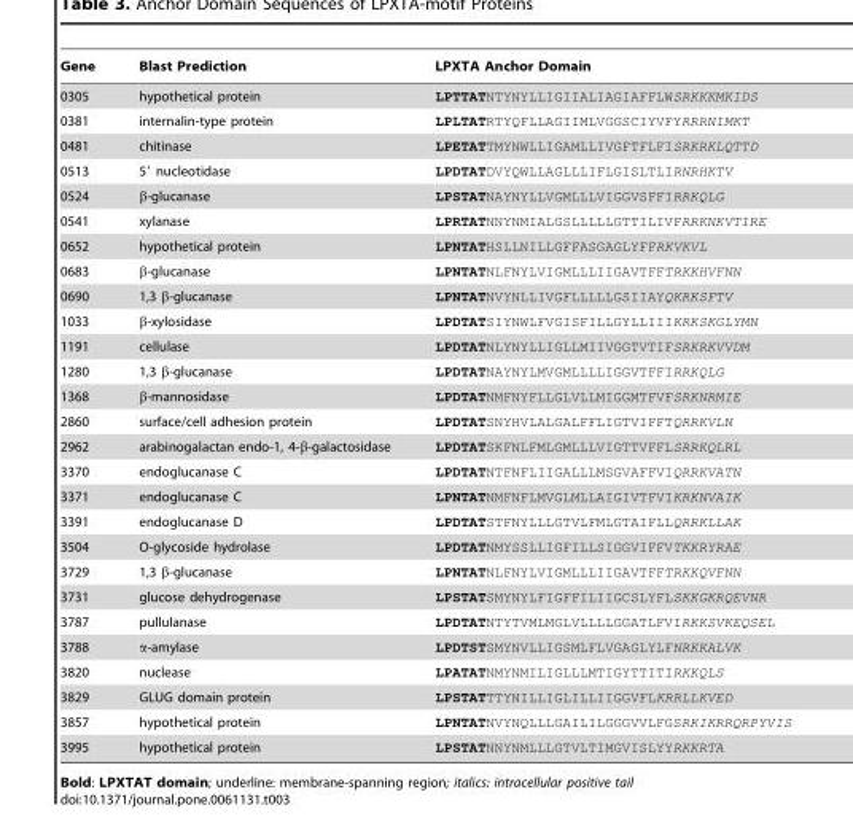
<table><thead><tr><td>Gene</td><td>Blast Prediction</td><td>LPXTA Anchor Domain</td></tr></thead><tbody><tr><td>0305</td><td>hypothetical protein</td><td>LPTTATNTYNYLLIGIIALIAGIAFFLWSRKKKMKIDS</td></tr><tr><td>0381</td><td>internalin-type protein</td><td>LPLTATRTYQFLLAGIIMLVGGSCIYVFYRRRNIMKT</td></tr><tr><td>0481</td><td>chitinase</td><td>LPETATTMYNWLLIGAMLLIVGFTFLFISRKRKLQTTD</td></tr><tr><td>0513</td><td>5′ nucleotidase</td><td>LPDTATDVYQWLLAGLLLIFLGISLTLIRNRHKTV</td></tr><tr><td>0524</td><td>β-glucanase</td><td>LPSTATNAYNYLLVGMLLLVIGGVSFFIRRKQLG</td></tr><tr><td>0541</td><td>xylanase</td><td>LPRTATNNYNMIALGSLLLLLGTTILIVFRRKNKVTIRE</td></tr><tr><td>0652</td><td>hypothetical protein</td><td>LPNTATHSLLNILLGFFASGAGLYFFRKVKVL</td></tr><tr><td>0683</td><td>β-glucanase</td><td>LPNTATNLFNYLVIGMLLLIIGAVTFFTRKKHVFNN</td></tr><tr><td>0690</td><td>1,3 β-glucanase</td><td>LPNTATNVYNLLIVGFLLLLLGSIIAYQKRKSFTV</td></tr><tr><td>1033</td><td>β-xylosidase</td><td>LPDTATSIYNWLFVGISFILLGYLLIIIKRKSKGLYMN</td></tr><tr><td>1191</td><td>cellulase</td><td>LPDTATNLYNYLLIGLLMIIVGGTVTIFSRKRKVVDM</td></tr><tr><td>1280</td><td>1,3 β-glucanase</td><td>LPDTATNAYNYLMVGMLLLLIGGVTFFIRRKQLG</td></tr><tr><td>1368</td><td>β-mannosidase</td><td>LPDTATNMFNYFLLGLVLLMIGGMTFVFSRKNRMIE</td></tr><tr><td>2860</td><td>surface/cell adhesion protein</td><td>LPDTATSNYHVLALGALFFLIGTVIFFTQRRKVLN</td></tr><tr><td>2962</td><td>arabinogalactan endo-1, 4-β-galactosidase</td><td>LPDTATSKFNLFMLGMLLLVIGTTVFFLSRRKQLRL</td></tr><tr><td>3370</td><td>endoglucanase C</td><td>LPDTATNTFNFLIIGALLLMSGVAFFVIQRRKVATN</td></tr><tr><td>3371</td><td>endoglucanase C</td><td>LPNTATNMFNFLMVGLMLLAIGIVTFVIKRKNVAIK</td></tr><tr><td>3391</td><td>endoglucanase D</td><td>LPDTATSTFNYLLLGTVLFMLGTAIFLLQRRKLLAK</td></tr><tr><td>3504</td><td>O-glycoside hydrolase</td><td>LPDTATNMYSSLLIGFILLSIGGVIFFVTKKRYRAE</td></tr><tr><td>3729</td><td>1,3 β-glucanase</td><td>LPNTATNLFNYLVIGMLLLIIGAVTFFTRKKQVFNN</td></tr><tr><td>3731</td><td>glucose dehydrogenase</td><td>LPSTATSMYNYLFIGFFILIIGCSLYFLSKKGKRQEVNR</td></tr><tr><td>3787</td><td>pullulanase</td><td>LPDTATNTYTVMLMGLVLLLLGGATLFVIRKKSVKEQSEL</td></tr><tr><td>3788</td><td>α-amylase</td><td>LPDTSTSMYNVLLIGSMLFLVGAGLYLFNRKKALVK</td></tr><tr><td>3820</td><td>nuclease</td><td>LPATATNMYNMILIGLLLMTIGYTTITIRKKQLS</td></tr><tr><td>3829</td><td>GLUG domain protein</td><td>LPSTATTTYNILLIGLILLIIGGVFLKRRLLKVED</td></tr><tr><td>3857</td><td>hypothetical protein</td><td>LPNTATNVYNQLLLGAILILGGGVVLFGSRKIKRRQRPYVIS</td></tr><tr><td>3995</td><td>hypothetical protein</td><td>LPSTATNNYNMLLLGTVLTIMGVISLYYRKKRTA</td></tr></tbody></table>